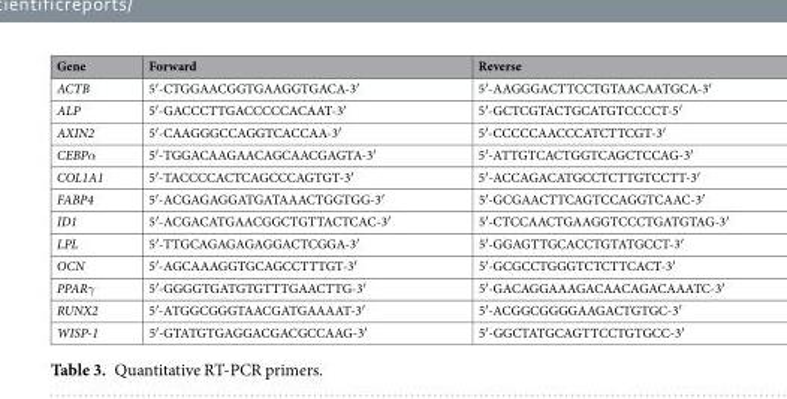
<table><thead><tr><td>Gene</td><td>Forward</td><td>Reverse</td></tr></thead><tbody><tr><td>ACTB</td><td>5′-CTGGAACGGTGAAGGTGACA-3′</td><td>5′-AAGGGACTTCCTGTAACAATGCA-3′</td></tr><tr><td>ALP</td><td>5′-GACCCTTGACCCCCACAAT-3′</td><td>5′-GCTCGTACTGCATGTCCCCT-5′</td></tr><tr><td>AXIN2</td><td>5′-CAAGGGCCAGGTCACCAA-3′</td><td>5′-CCCCCAACCCATCTTCGT-3′</td></tr><tr><td>CEBPα</td><td>5′-TGGACAAGAACAGCAACGAGTA-3′</td><td>5′-ATTGTCACTGGTCAGCTCCAG-3′</td></tr><tr><td>COL1A1</td><td>5′-TACCCCACTCAGCCCAGTGT-3′</td><td>5′-ACCAGACATGCCTCTTGTCCTT-3′</td></tr><tr><td>FABP4</td><td>5′-ACGAGAGGATGATAAACTGGTGG-3′</td><td>5′-GCGAACTTCAGTCCAGGTCAAC-3′</td></tr><tr><td>ID1</td><td>5′-ACGACATGAACGGCTGTTACTCAC-3′</td><td>5′-CTCCAACTGAAGGTCCCTGATGTAG-3′</td></tr><tr><td>LPL</td><td>5′-TTGCAGAGAGAGGACTCGGA-3′</td><td>5′-GGAGTTGCACCTGTATGCCT-3′</td></tr><tr><td>OCN</td><td>5′-AGCAAAGGTGCAGCCTTTGT-3′</td><td>5′-GCGCCTGGGTCTCTTCACT-3′</td></tr><tr><td>PPARγ</td><td>5′-GGGGTGATGTGTTTGAACTTG-3′</td><td>5′-GACAGGAAAGACAACAGACAAATC-3′</td></tr><tr><td>RUNX2</td><td>5′-ATGGCGGGTAACGATGAAAAT-3′</td><td>5′-ACGGCGGGGAAGACTGTGC-3′</td></tr><tr><td>WISP-1</td><td>5′-GTATGTGAGGACGACGCCAAG-3′</td><td>5′-GGCTATGCAGTTCCTGTGCC-3′</td></tr></tbody></table>